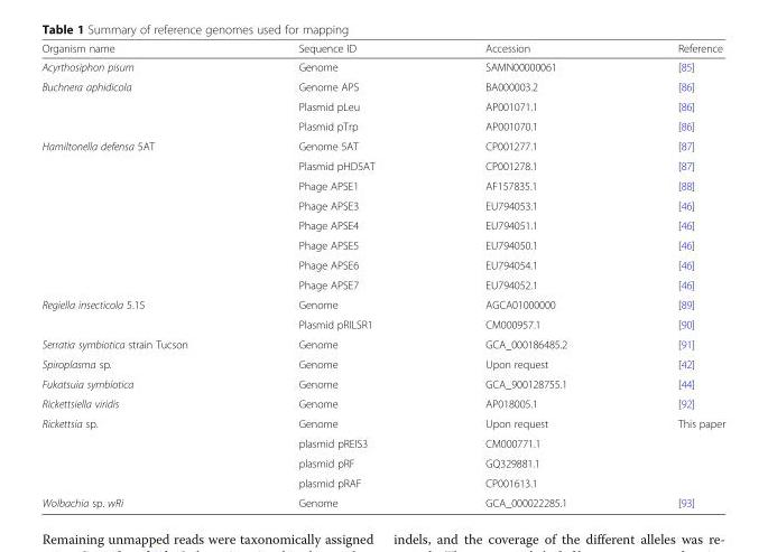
<table><thead><tr><td>Organism name</td><td>Sequence ID</td><td>Accession</td><td>Reference</td></tr></thead><tbody><tr><td>Acyrthosiphon pisum</td><td>Genome</td><td>SAMN00000061</td><td>[85]</td></tr><tr><td rowspan="3">Buchnera aphidicola</td><td>Genome APS</td><td>BA000003.2</td><td>[86]</td></tr><tr><td>Plasmid pLeu</td><td>AP001071.1</td><td>[86]</td></tr><tr><td>Plasmid pTrp</td><td>AP001070.1</td><td>[86]</td></tr><tr><td rowspan="8">Hamiltonella defensa 5AT</td><td>Genome 5AT</td><td>CP001277.1</td><td>[87]</td></tr><tr><td>Plasmid pHD5AT</td><td>CP001278.1</td><td>[87]</td></tr><tr><td>Phage APSE1</td><td>AF157835.1</td><td>[88]</td></tr><tr><td>Phage APSE3</td><td>EU794053.1</td><td>[46]</td></tr><tr><td>Phage APSE4</td><td>EU794051.1</td><td>[46]</td></tr><tr><td>Phage APSE5</td><td>EU794050.1</td><td>[46]</td></tr><tr><td>Phage APSE6</td><td>EU794054.1</td><td>[46]</td></tr><tr><td>Phage APSE7</td><td>EU794052.1</td><td>[46]</td></tr><tr><td rowspan="2">Regiella insecticola 5.15</td><td>Genome</td><td>AGCA01000000</td><td>[89]</td></tr><tr><td>Plasmid pRILSR1</td><td>CM000957.1</td><td>[90]</td></tr><tr><td>Serratia symbiotica strain Tucson</td><td>Genome</td><td>GCA_000186485.2</td><td>[91]</td></tr><tr><td>Spiroplasma sp.</td><td>Genome</td><td>Upon request</td><td>[42]</td></tr><tr><td>Fukatsuia symbiotica</td><td>Genome</td><td>GCA_900128755.1</td><td>[44]</td></tr><tr><td>Rickettsiella viridis</td><td>Genome</td><td>AP018005.1</td><td>[92]</td></tr><tr><td rowspan="4">Rickettsia sp.</td><td>Genome</td><td>Upon request</td><td rowspan="4">This paper</td></tr><tr><td>plasmid pREIS3</td><td>CM000771.1</td></tr><tr><td>plasmid pRF</td><td>GQ329881.1</td></tr><tr><td>plasmid pRAF</td><td>CP001613.1</td></tr><tr><td>Wolbachia sp. wRi</td><td>Genome</td><td>GCA_000022285.1</td><td>[93]</td></tr></tbody></table>